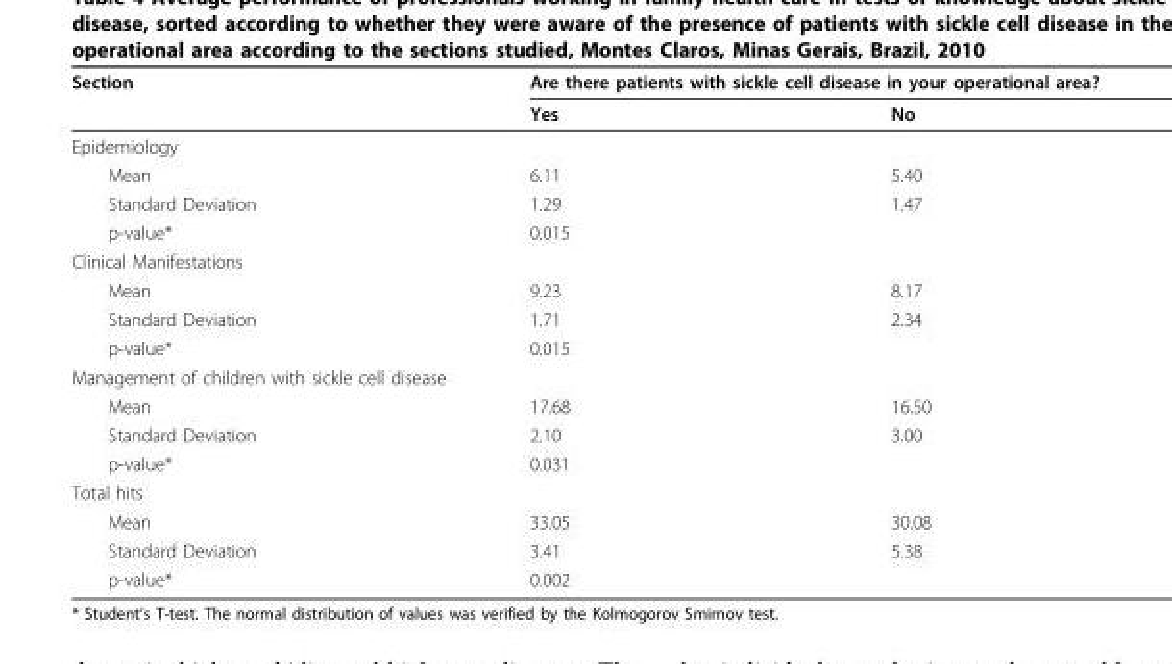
<table><thead><tr><td rowspan="2">Section</td><td colspan="2">Are there patients with sickle cell disease in your operational area?</td></tr><tr><td>Yes</td><td>No</td></tr></thead><tbody><tr><td colspan="3">Epidemiology</td></tr><tr><td>Mean</td><td>6.11</td><td>5.40</td></tr><tr><td>Standard Deviation</td><td>1.29</td><td>1.47</td></tr><tr><td>p-value*</td><td>0.015</td><td></td></tr><tr><td colspan="3">Clinical Manifestations</td></tr><tr><td>Mean</td><td>9.23</td><td>8.17</td></tr><tr><td>Standard Deviation</td><td>1.71</td><td>2.34</td></tr><tr><td>p-value*</td><td>0.015</td><td></td></tr><tr><td colspan="3">Management of children with sickle cell disease</td></tr><tr><td>Mean</td><td>17.68</td><td>16.50</td></tr><tr><td>Standard Deviation</td><td>2.10</td><td>3.00</td></tr><tr><td>p-value*</td><td>0.031</td><td></td></tr><tr><td colspan="3">Total hits</td></tr><tr><td>Mean</td><td>33.05</td><td>30.08</td></tr><tr><td>Standard Deviation</td><td>3.41</td><td>5.38</td></tr><tr><td>p-value*</td><td>0.002</td><td></td></tr></tbody></table>